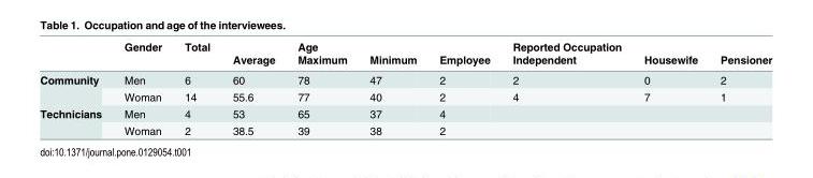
<table><thead><tr><td rowspan="2"></td><td rowspan="2">Gender</td><td rowspan="2">Total</td><td rowspan="2">Average</td><td rowspan="2">Age Maximum</td><td rowspan="2">Minimum</td><td rowspan="2">Employee</td><td rowspan="2">Reported Occupation Independent</td><td rowspan="2">Housewife</td><td rowspan="2">Pensioner</td></tr><tr></tr></thead><tbody><tr><td rowspan="2">Community</td><td>Men</td><td>6</td><td>60</td><td>78</td><td>47</td><td>2</td><td>2</td><td>0</td><td>2</td></tr><tr><td>Woman</td><td>14</td><td>55.6</td><td>77</td><td>40</td><td>2</td><td>4</td><td>7</td><td>1</td></tr><tr><td rowspan="2">Technicians</td><td>Men</td><td>4</td><td>53</td><td>65</td><td>37</td><td>4</td><td></td><td></td><td></td></tr><tr><td>Woman</td><td>2</td><td>38.5</td><td>39</td><td>38</td><td>2</td><td></td><td></td><td></td></tr></tbody></table>